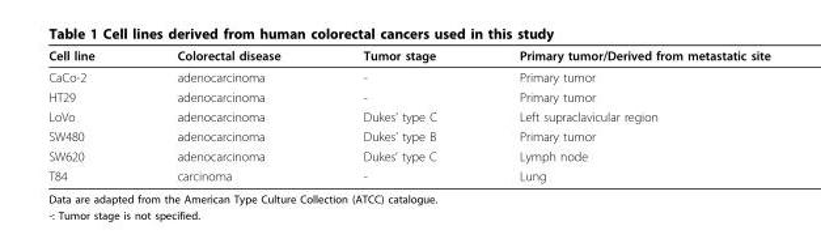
<table><thead><tr><td>Cell line</td><td>Colorectal disease</td><td>Tumor stage</td><td>Primary tumor/Derived from metastatic site</td></tr></thead><tbody><tr><td>CaCo-2</td><td>adenocarcinoma</td><td>-</td><td>Primary tumor</td></tr><tr><td>HT29</td><td>adenocarcinoma</td><td>-</td><td>Primary tumor</td></tr><tr><td>LoVo</td><td>adenocarcinoma</td><td>Dukes’ type C</td><td>Left supraclavicular region</td></tr><tr><td>SW480</td><td>adenocarcinoma</td><td>Dukes’ type B</td><td>Primary tumor</td></tr><tr><td>SW620</td><td>adenocarcinoma</td><td>Dukes’ type C</td><td>Lymph node</td></tr><tr><td>T84</td><td>carcinoma</td><td>-</td><td>Lung</td></tr></tbody></table>